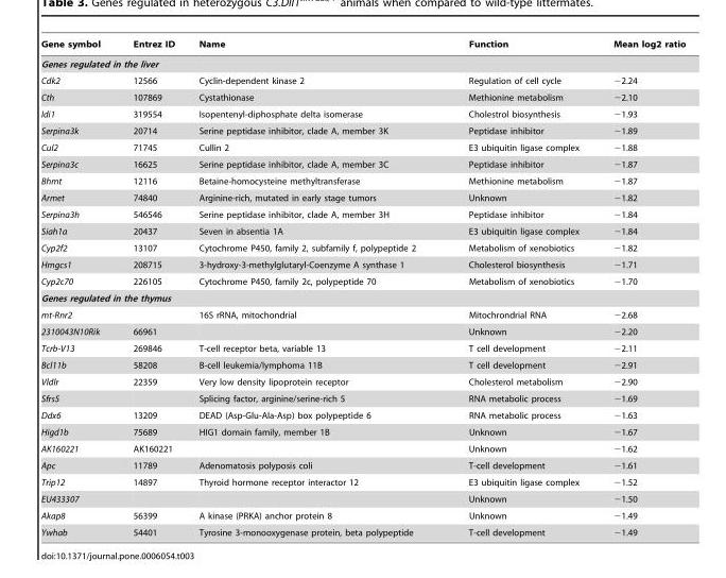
<table><thead><tr><td>Gene symbol</td><td>Entrez ID</td><td>Name</td><td>Function</td><td>Mean log2 ratio</td></tr></thead><tbody><tr><td colspan="5">Genes regulated in the liver</td></tr><tr><td>Cdk2</td><td>12566</td><td>Cyclin-dependent kinase 2</td><td>Regulation of cell cycle</td><td>−2.24</td></tr><tr><td>Cth</td><td>107869</td><td>Cystathionase</td><td>Methionine metabolism</td><td>−2.10</td></tr><tr><td>Idi1</td><td>319554</td><td>Isopentenyl-diphosphate delta isomerase</td><td>Cholestrol biosynthesis</td><td>−1.93</td></tr><tr><td>Serpina3k</td><td>20714</td><td>Serine peptidase inhibitor, clade A, member 3K</td><td>Peptidase inhibitor</td><td>−1.89</td></tr><tr><td>Cul2</td><td>71745</td><td>Cullin 2</td><td>E3 ubiquitin ligase complex</td><td>−1.88</td></tr><tr><td>Serpina3c</td><td>16625</td><td>Serine peptidase inhibitor, clade A, member 3C</td><td>Peptidase inhibitor</td><td>−1.87</td></tr><tr><td>Bhmt</td><td>12116</td><td>Betaine-homocysteine methyltransferase</td><td>Methionine metabolism</td><td>−1.87</td></tr><tr><td>Armet</td><td>74840</td><td>Arginine-rich, mutated in early stage tumors</td><td>Unknown</td><td>−1.82</td></tr><tr><td>Serpina3h</td><td>546546</td><td>Serine peptidase inhibitor, clade A, member 3H</td><td>Peptidase inhibitor</td><td>−1.84</td></tr><tr><td>Siah1a</td><td>20437</td><td>Seven in absentia 1A</td><td>E3 ubiquitin ligase complex</td><td>−1.84</td></tr><tr><td>Cyp2f2</td><td>13107</td><td>Cytochrome P450, family 2, subfamily f, polypeptide 2</td><td>Metabolism of xenobiotics</td><td>−1.82</td></tr><tr><td>Hmgcs1</td><td>208715</td><td>3-hydroxy-3-methylglutaryl-Coenzyme A synthase 1</td><td>Cholesterol biosynthesis</td><td>−1.71</td></tr><tr><td>Cyp2c70</td><td>226105</td><td>Cytochrome P450, family 2c, polypeptide 70</td><td>Metabolism of xenobiotics</td><td>−1.70</td></tr><tr><td colspan="5">Genes regulated in the thymus</td></tr><tr><td>mt-Rnr2</td><td></td><td>16S rRNA, mitochondrial</td><td>Mitochrondrial RNA</td><td>−2.68</td></tr><tr><td>2310043N10Rik</td><td>66961</td><td></td><td>Unknown</td><td>−2.20</td></tr><tr><td>Tcrb-V13</td><td>269846</td><td>T-cell receptor beta, variable 13</td><td>T cell development</td><td>−2.11</td></tr><tr><td>Bcl11b</td><td>58208</td><td>B-cell leukemia/lymphoma 11B</td><td>T cell development</td><td>−2.91</td></tr><tr><td>Vldlr</td><td>22359</td><td>Very low density lipoprotein receptor</td><td>Cholesterol metabolism</td><td>−2.90</td></tr><tr><td>Sfrs5</td><td></td><td>Splicing factor, arginine/serine-rich 5</td><td>RNA metabolic process</td><td>−1.69</td></tr><tr><td>Ddx6</td><td>13209</td><td>DEAD (Asp-Glu-Ala-Asp) box polypeptide 6</td><td>RNA metabolic process</td><td>−1.63</td></tr><tr><td>Higd1b</td><td>75689</td><td>HIG1 domain family, member 1B</td><td>Unknown</td><td>−1.67</td></tr><tr><td>AK160221</td><td>AK160221</td><td></td><td>Unknown</td><td>−1.62</td></tr><tr><td>Apc</td><td>11789</td><td>Adenomatosis polyposis coli</td><td>T-cell development</td><td>−1.61</td></tr><tr><td>Trip12</td><td>14897</td><td>Thyroid hormone receptor interactor 12</td><td>E3 ubiquitin ligase complex</td><td>−1.52</td></tr><tr><td>EU433307</td><td></td><td></td><td>Unknown</td><td>−1.50</td></tr><tr><td>Akap8</td><td>56399</td><td>A kinase (PRKA) anchor protein 8</td><td>Unknown</td><td>−1.49</td></tr><tr><td>Ywhab</td><td>54401</td><td>Tyrosine 3-monooxygenase protein, beta polypeptide</td><td>T-cell development</td><td>−1.49</td></tr></tbody></table>